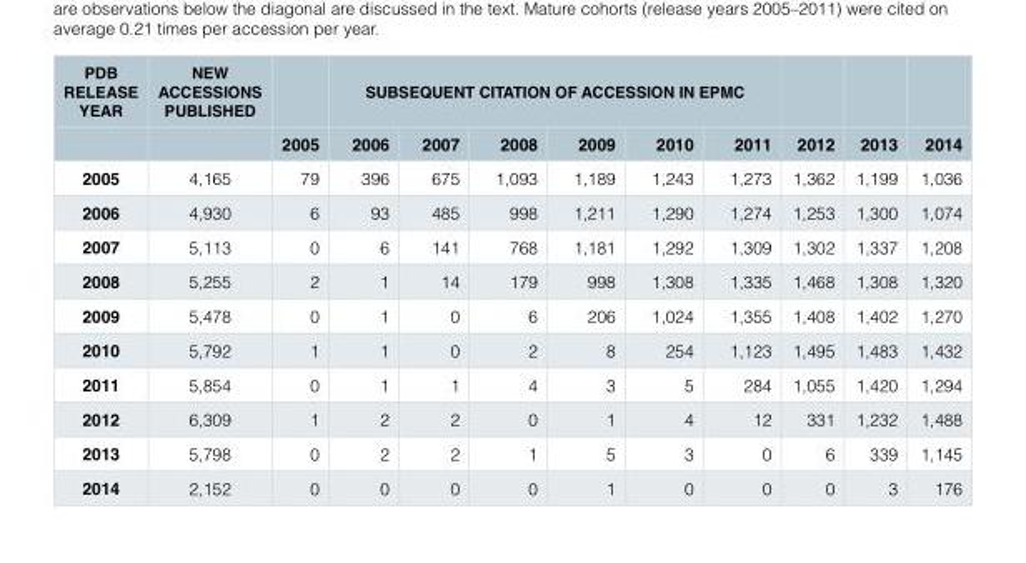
<table><thead><tr><td rowspan="2">PDB RELEASE YEAR</td><td rowspan="2">NEW ACCESSIONS PUBLISHED</td><td rowspan="2">2005</td><td colspan="6">SUBSEQUENT CITATION OF ACCESSION IN EPMC</td><td rowspan="2">2012</td><td rowspan="2">2013</td><td rowspan="2">2014</td></tr><tr><td>2006</td><td>2007</td><td>2008</td><td>2009</td><td>2010</td><td>2011</td></tr></thead><tbody><tr><td>2005</td><td>4,165</td><td>79</td><td>396</td><td>675</td><td>1,093</td><td>1,189</td><td>1,243</td><td>1,273</td><td>1,362</td><td>1,199</td><td>1,036</td></tr><tr><td>2006</td><td>4,930</td><td>6</td><td>93</td><td>485</td><td>998</td><td>1,211</td><td>1,290</td><td>1,274</td><td>1,253</td><td>1,300</td><td>1,074</td></tr><tr><td>2007</td><td>5,113</td><td>0</td><td>6</td><td>141</td><td>768</td><td>1,181</td><td>1,292</td><td>1,309</td><td>1,302</td><td>1,337</td><td>1,208</td></tr><tr><td>2008</td><td>5,255</td><td>2</td><td>1</td><td>14</td><td>179</td><td>998</td><td>1,308</td><td>1,335</td><td>1,468</td><td>1,308</td><td>1,320</td></tr><tr><td>2009</td><td>5,478</td><td>0</td><td>1</td><td>0</td><td>6</td><td>206</td><td>1,024</td><td>1,355</td><td>1,408</td><td>1,402</td><td>1,270</td></tr><tr><td>2010</td><td>5,792</td><td>1</td><td>1</td><td>0</td><td>2</td><td>8</td><td>254</td><td>1,123</td><td>1,495</td><td>1,483</td><td>1,432</td></tr><tr><td>2011</td><td>5,854</td><td>0</td><td>1</td><td>1</td><td>4</td><td>3</td><td>5</td><td>284</td><td>1,055</td><td>1,420</td><td>1,294</td></tr><tr><td>2012</td><td>6,309</td><td>1</td><td>2</td><td>2</td><td>0</td><td>1</td><td>4</td><td>12</td><td>331</td><td>1,232</td><td>1,488</td></tr><tr><td>2013</td><td>5,798</td><td>0</td><td>2</td><td>2</td><td>1</td><td>5</td><td>3</td><td>0</td><td>6</td><td>339</td><td>1,145</td></tr><tr><td>2014</td><td>2,152</td><td>0</td><td>0</td><td>0</td><td>0</td><td>1</td><td>0</td><td>0</td><td>0</td><td>3</td><td>176</td></tr></tbody></table>